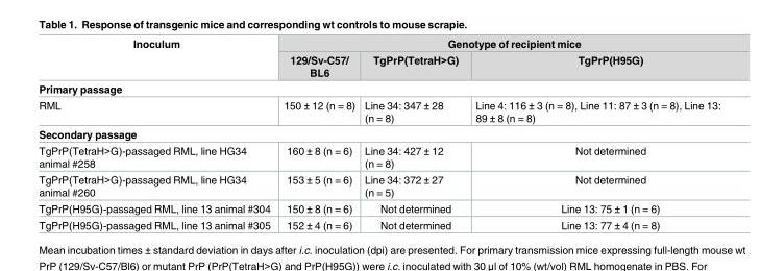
<table><thead><tr><td rowspan="2">Inoculum</td><td colspan="3">Genotype of recipient mice</td></tr><tr><td>129/Sv-C57/ BL6</td><td>TgPrP(TetraH&gt;G)</td><td>TgPrP(H95G)</td></tr></thead><tbody><tr><td colspan="4">Primary passage</td></tr><tr><td>RML</td><td>150 ± 12 (n = 8)</td><td>Line 34: 347 ± 28 (n = 8)</td><td>Line 4: 116 ± 3 (n = 8), Line 11: 87 ± 3 (n = 8), Line 13: 89 ± 8 (n = 8)</td></tr><tr><td colspan="4">Secondary passage</td></tr><tr><td>TgPrP(TetraH&gt;G)-passaged RML, line HG34 animal #258</td><td>160 ± 8 (n = 6)</td><td>Line 34: 427 ± 12 (n = 8)</td><td>Not determined</td></tr><tr><td>TgPrP(TetraH&gt;G)-passaged RML, line HG34 animal #260</td><td>153 ± 5 (n = 6)</td><td>Line 34: 372 ± 27 (n = 5)</td><td>Not determined</td></tr><tr><td>TgPrP(H95G)-passaged RML, line 13 animal #304</td><td>150 ± 8 (n = 6)</td><td>Not determined</td><td>Line 13: 75 ± 1 (n = 6)</td></tr><tr><td>TgPrP(H95G)-passaged RML, line 13 animal #305</td><td>152 ± 4 (n = 6)</td><td>Not determined</td><td>Line 13: 77 ± 4 (n = 8)</td></tr></tbody></table>